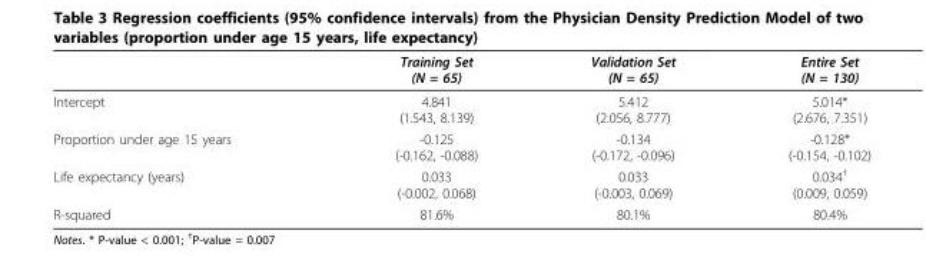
<table><thead><tr><td></td><td>Training Set (N = 65)</td><td>Validation Set (N = 65)</td><td>Entire Set (N = 130)</td></tr></thead><tbody><tr><td>Intercept</td><td>4.841 (1.543, 8.139)</td><td>5.412 (2.056, 8.777)</td><td>5.014* (2.676, 7.351)</td></tr><tr><td>Proportion under age 15 years</td><td>-0.125 (-0.162, -0.088)</td><td>-0.134 (-0.172, -0.096)</td><td>-0.128* (-0.154, -0.102)</td></tr><tr><td>Life expectancy (years)</td><td>0.033 (-0.002, 0.068)</td><td>0.033 (-0.003, 0.069)</td><td>0.034<sup>†</sup> (0.009, 0.059)</td></tr><tr><td>R-squared</td><td>81.6%</td><td>80.1%</td><td>80.4%</td></tr></tbody></table>